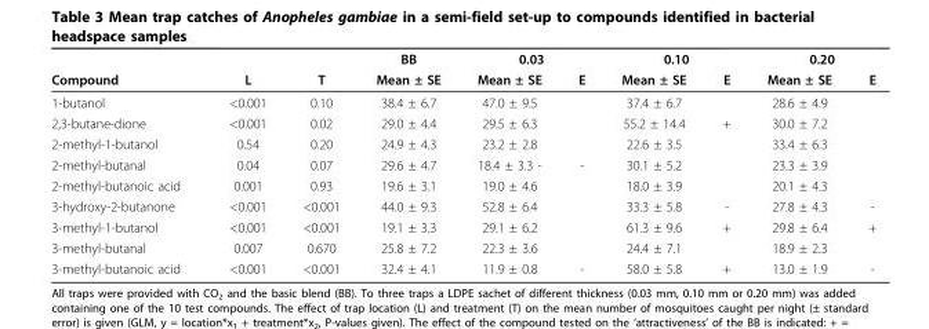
<table><thead><tr><td rowspan="2">Compound</td><td rowspan="2">L</td><td rowspan="2">T</td><td rowspan="2">BB Mean ± SE</td><td colspan="2">0.03</td><td colspan="2">0.10</td><td colspan="2">0.20</td></tr><tr><td>Mean ± SE</td><td>E</td><td>Mean ± SE</td><td>E</td><td>Mean ± SE</td><td>E</td></tr></thead><tbody><tr><td>1-butanol</td><td>&lt;0.001</td><td>0.10</td><td>38.4 ± 6.7</td><td>47.0 ± 9.5</td><td></td><td>37.4 ± 6.7</td><td></td><td>28.6 ± 4.9</td><td></td></tr><tr><td>2,3-butane-dione</td><td>&lt;0.001</td><td>0.02</td><td>29.0 ± 4.4</td><td>29.5 ± 6.3</td><td></td><td>55.2 ± 14.4</td><td>+</td><td>30.0 ± 7.2</td><td></td></tr><tr><td>2-methyl-1-butanol</td><td>0.54</td><td>0.20</td><td>24.9 ± 4.3</td><td>23.2 ± 2.8</td><td></td><td>22.6 ± 3.5</td><td></td><td>33.4 ± 6.3</td><td></td></tr><tr><td>2-methyl-butanal</td><td>0.04</td><td>0.07</td><td>29.6 ± 4.7</td><td>18.4 ± 3.3 -</td><td>-</td><td>30.1 ± 5.2</td><td></td><td>23.3 ± 3.9</td><td></td></tr><tr><td>2-methyl-butanoic acid</td><td>0.001</td><td>0.93</td><td>19.6 ± 3.1</td><td>19.0 ± 4.6</td><td></td><td>18.0 ± 3.9</td><td></td><td>20.1 ± 4.3</td><td></td></tr><tr><td>3-hydroxy-2-butanone</td><td>&lt;0.001</td><td>&lt;0.001</td><td>44.0 ± 9.3</td><td>52.8 ± 6.4</td><td></td><td>33.3 ± 5.8</td><td>-</td><td>27.8 ± 4.3</td><td>-</td></tr><tr><td>3-methyl-1-butanol</td><td>&lt;0.001</td><td>&lt;0.001</td><td>19.1 ± 3.3</td><td>29.1 ± 6.2</td><td></td><td>61.3 ± 9.6</td><td>+</td><td>29.8 ± 6.4</td><td>+</td></tr><tr><td>3-methyl-butanal</td><td>0.007</td><td>0.670</td><td>25.8 ± 7.2</td><td>22.3 ± 3.6</td><td></td><td>24.4 ± 7.1</td><td></td><td>18.9 ± 2.3</td><td></td></tr><tr><td>3-methyl-butanoic acid</td><td>&lt;0.001</td><td>&lt;0.001</td><td>32.4 ± 4.1</td><td>11.9 ± 0.8</td><td>-</td><td>58.0 ± 5.8</td><td>+</td><td>13.0 ± 1.9</td><td>-</td></tr></tbody></table>